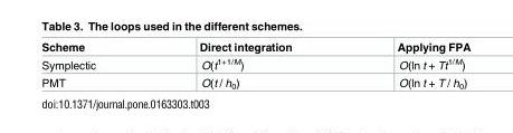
<table><thead><tr><td>Scheme</td><td>Direct integration</td><td>Applying FPA</td></tr></thead><tbody><tr><td>Symplectic</td><td>O(t<sup>1+1/M</sup>)</td><td>O(ln t + Tt<sup>1/M</sup>)</td></tr><tr><td>PMT</td><td>O(t / h<sub>0</sub>)</td><td>O(ln t + T / h<sub>0</sub>)</td></tr></tbody></table>